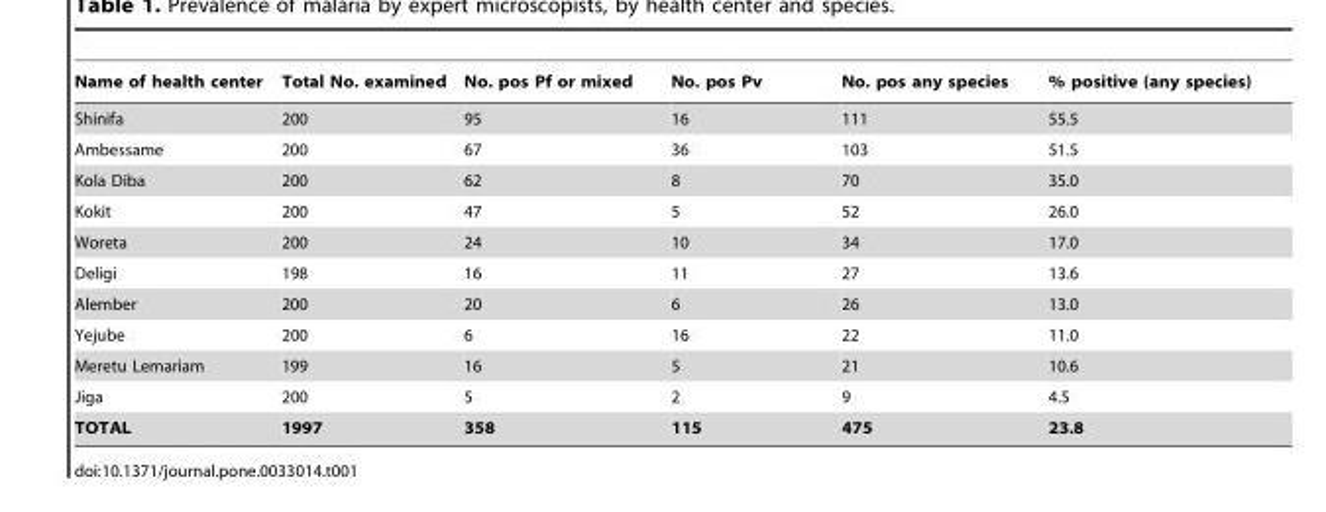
<table><thead><tr><td>Name of health center</td><td>Total No. examined</td><td>No. pos Pf or mixed</td><td>No. pos Pv</td><td>No. pos any species</td><td>% positive (any species)</td></tr></thead><tbody><tr><td>Shinifa</td><td>200</td><td>95</td><td>16</td><td>111</td><td>55.5</td></tr><tr><td>Ambessame</td><td>200</td><td>67</td><td>36</td><td>103</td><td>51.5</td></tr><tr><td>Kola Diba</td><td>200</td><td>62</td><td>8</td><td>70</td><td>35.0</td></tr><tr><td>Kokit</td><td>200</td><td>47</td><td>5</td><td>52</td><td>26.0</td></tr><tr><td>Woreta</td><td>200</td><td>24</td><td>10</td><td>34</td><td>17.0</td></tr><tr><td>Deligi</td><td>198</td><td>16</td><td>11</td><td>27</td><td>13.6</td></tr><tr><td>Alember</td><td>200</td><td>20</td><td>6</td><td>26</td><td>13.0</td></tr><tr><td>Yejube</td><td>200</td><td>6</td><td>16</td><td>22</td><td>11.0</td></tr><tr><td>Meretu Lemariam</td><td>199</td><td>16</td><td>5</td><td>21</td><td>10.6</td></tr><tr><td>Jiga</td><td>200</td><td>5</td><td>2</td><td>9</td><td>4.5</td></tr><tr><td>TOTAL</td><td>1997</td><td>358</td><td>115</td><td>475</td><td>23.8</td></tr></tbody></table>